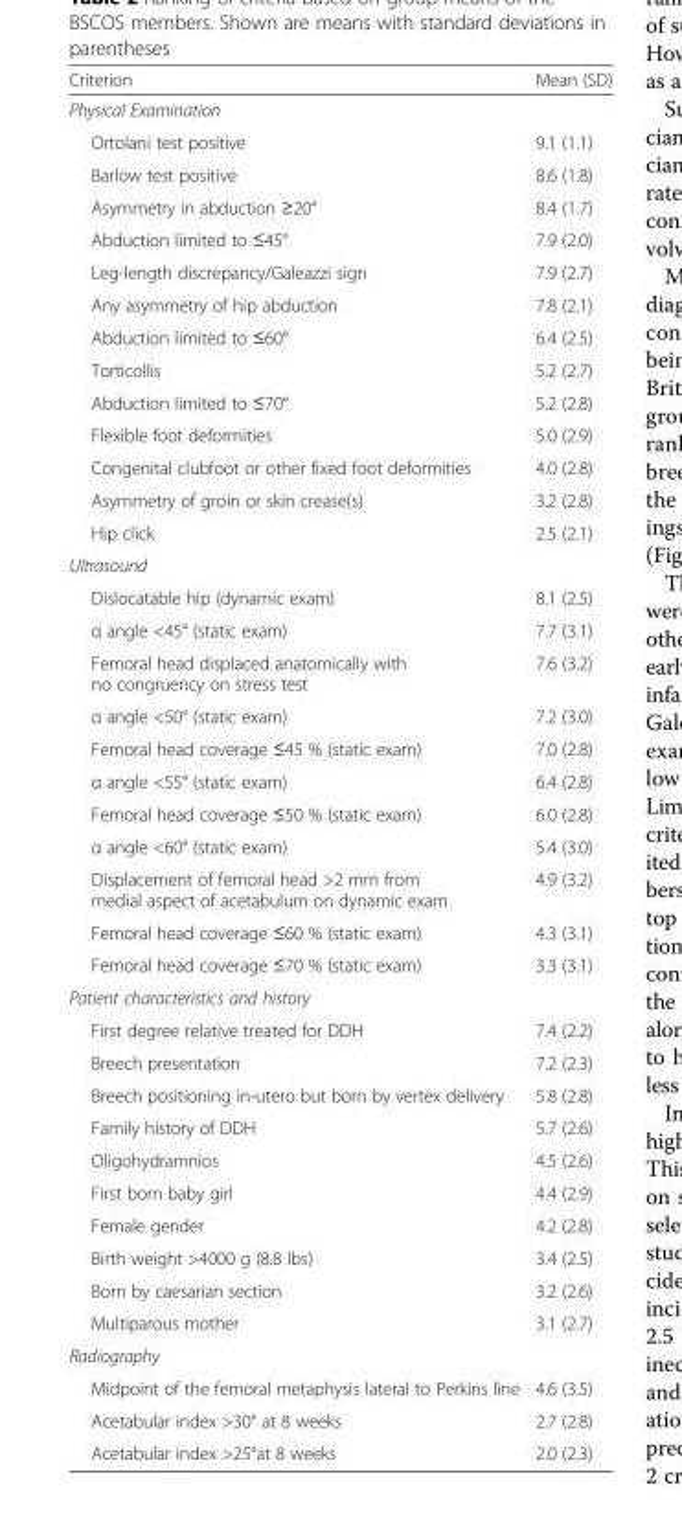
<table><thead><tr><td>Criterion</td><td>Mean (SD)</td></tr></thead><tbody><tr><td colspan="2">Physical Examination</td></tr><tr><td>Ortolani test positive</td><td>9.1 (1.1)</td></tr><tr><td>Barlow test positive</td><td>8.6 (1.8)</td></tr><tr><td>Asymmetry in abduction ≥20°</td><td>8.4 (1.7)</td></tr><tr><td>Abduction limited to ≤45°</td><td>7.9 (2.0)</td></tr><tr><td>Leg-length discrepancy/Galeazzi sign</td><td>7.9 (2.7)</td></tr><tr><td>Any asymmetry of hip abduction</td><td>7.8 (2.1)</td></tr><tr><td>Abduction limited to ≤60°</td><td>6.4 (2.5)</td></tr><tr><td>Torticollis</td><td>5.2 (2.7)</td></tr><tr><td>Abduction limited to ≤70°</td><td>5.2 (2.8)</td></tr><tr><td>Flexible foot deformities</td><td>5.0 (2.9)</td></tr><tr><td>Congenital clubfoot or other fixed foot deformities</td><td>4.0 (2.8)</td></tr><tr><td>Asymmetry of groin or skin crease(s)</td><td>3.2 (2.8)</td></tr><tr><td>Hip click</td><td>2.5 (2.1)</td></tr><tr><td colspan="2">Ultrasound</td></tr><tr><td>Dislocatable hip (dynamic exam)</td><td>8.1 (2.5)</td></tr><tr><td>α angle &lt;45° (static exam)</td><td>7.7 (3.1)</td></tr><tr><td>Femoral head displaced anatomically with no congruency on stress test</td><td>7.6 (3.2)</td></tr><tr><td>α angle &lt;50° (static exam)</td><td>7.2 (3.0)</td></tr><tr><td>Femoral head coverage ≤45 % (static exam)</td><td>7.0 (2.8)</td></tr><tr><td>α angle &lt;55° (static exam)</td><td>6.4 (2.8)</td></tr><tr><td>Femoral head coverage ≤50 % (static exam)</td><td>6.0 (2.8)</td></tr><tr><td>α angle &lt;60° (static exam)</td><td>5.4 (3.0)</td></tr><tr><td>Displacement of femoral head &gt;2 mm from medial aspect of acetabulum on dynamic exam</td><td>4.9 (3.2)</td></tr><tr><td>Femoral head coverage ≤60 % (static exam)</td><td>4.3 (3.1)</td></tr><tr><td>Femoral head coverage ≤70 % (static exam)</td><td>3.3 (3.1)</td></tr><tr><td colspan="2">Patient characteristics and history</td></tr><tr><td>First degree relative treated for DDH</td><td>7.4 (2.2)</td></tr><tr><td>Breech presentation</td><td>7.2 (2.3)</td></tr><tr><td>Breech positioning in-utero but born by vertex delivery</td><td>5.8 (2.8)</td></tr><tr><td>Family history of DDH</td><td>5.7 (2.6)</td></tr><tr><td>Oligohydramnios</td><td>4.5 (2.6)</td></tr><tr><td>First born baby girl</td><td>4.4 (2.9)</td></tr><tr><td>Female gender</td><td>4.2 (2.8)</td></tr><tr><td>Birth weight &gt;4000 g (8.8 lbs)</td><td>3.4 (2.5)</td></tr><tr><td>Born by caesarian section</td><td>3.2 (2.6)</td></tr><tr><td>Multiparous mother</td><td>3.1 (2.7)</td></tr><tr><td colspan="2">Radiography</td></tr><tr><td>Midpoint of the femoral metaphysis lateral to Perkins line</td><td>4.6 (3.5)</td></tr><tr><td>Acetabular index &gt;30° at 8 weeks</td><td>2.7 (2.8)</td></tr><tr><td>Acetabular index &gt;25°at 8 weeks</td><td>2.0 (2.3)</td></tr></tbody></table>